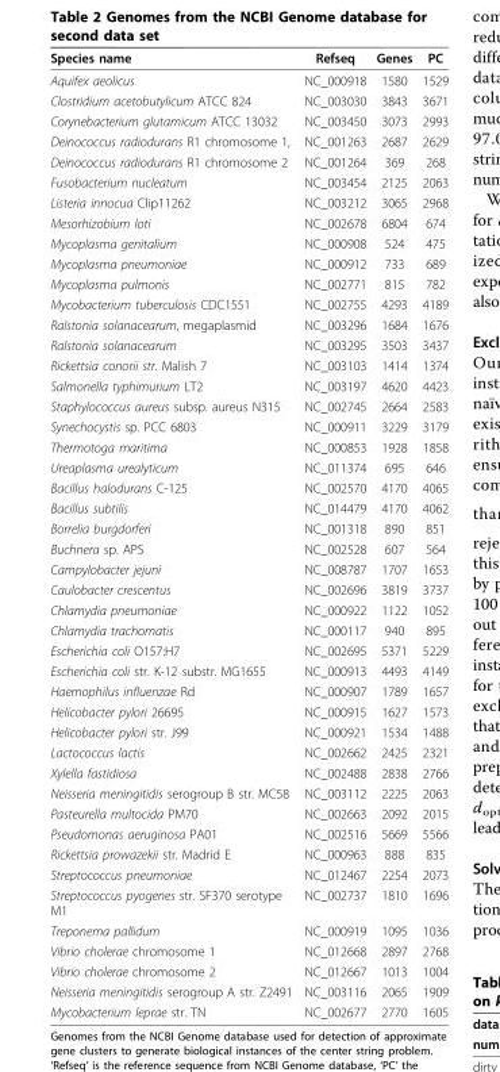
<table><thead><tr><td>Species name</td><td>Refseq</td><td>Genes</td><td>PC</td></tr></thead><tbody><tr><td>Aquifex aeolicus</td><td>NC_000918</td><td>1580</td><td>1529</td></tr><tr><td>Clostridium acetobutylicum ATCC 824</td><td>NC_003030</td><td>3843</td><td>3671</td></tr><tr><td>Corynebacterium glutamicum ATCC 13032</td><td>NC_003450</td><td>3073</td><td>2993</td></tr><tr><td>Deinococcus radiodurans R1 chromosome 1,</td><td>NC_001263</td><td>2687</td><td>2629</td></tr><tr><td>Deinococcus radiodurans R1 chromosome 2</td><td>NC_001264</td><td>369</td><td>268</td></tr><tr><td>Fusobacterium nucleatum</td><td>NC_003454</td><td>2125</td><td>2063</td></tr><tr><td>Listeria innocua Clip11262</td><td>NC_003212</td><td>3065</td><td>2968</td></tr><tr><td>Mesorhizobium loti</td><td>NC_002678</td><td>6804</td><td>674</td></tr><tr><td>Mycoplasma genitalium</td><td>NC_000908</td><td>524</td><td>475</td></tr><tr><td>Mycoplasma pneumoniae</td><td>NC_000912</td><td>733</td><td>689</td></tr><tr><td>Mycoplasma pulmonis</td><td>NC_002771</td><td>815</td><td>782</td></tr><tr><td>Mycobacterium tuberculosis CDC1551</td><td>NC_002755</td><td>4293</td><td>4189</td></tr><tr><td>Ralstonia solanacearum, megaplasmid</td><td>NC_003296</td><td>1684</td><td>1676</td></tr><tr><td>Ralstonia solanacearum</td><td>NC_003295</td><td>3503</td><td>3437</td></tr><tr><td>Rickettsia conorii str. Malish 7</td><td>NC_003103</td><td>1414</td><td>1374</td></tr><tr><td>Salmonella typhimurium LT2</td><td>NC_003197</td><td>4620</td><td>4423</td></tr><tr><td>Staphylococcus aureus subsp. aureus N315</td><td>NC_002745</td><td>2664</td><td>2583</td></tr><tr><td>Synechocystis sp. PCC 6803</td><td>NC_000911</td><td>3229</td><td>3179</td></tr><tr><td>Thermotoga maritima</td><td>NC_000853</td><td>1928</td><td>1858</td></tr><tr><td>Ureaplasma urealyticum</td><td>NC_011374</td><td>695</td><td>646</td></tr><tr><td>Bacillus halodurans C-125</td><td>NC_002570</td><td>4170</td><td>4065</td></tr><tr><td>Bacillus subtilis</td><td>NC_014479</td><td>4170</td><td>4062</td></tr><tr><td>Borrelia burgdorferi</td><td>NC_001318</td><td>890</td><td>851</td></tr><tr><td>Buchnera sp. APS</td><td>NC_002528</td><td>607</td><td>564</td></tr><tr><td>Campylobacter jejuni</td><td>NC_008787</td><td>1707</td><td>1653</td></tr><tr><td>Caulobacter crescentus</td><td>NC_002696</td><td>3819</td><td>3737</td></tr><tr><td>Chlamydia pneumoniae</td><td>NC_000922</td><td>1122</td><td>1052</td></tr><tr><td>Chlamydia trachomatis</td><td>NC_000117</td><td>940</td><td>895</td></tr><tr><td>Escherichia coli O157:H7</td><td>NC_002695</td><td>5371</td><td>5229</td></tr><tr><td>Escherichia coli str. K-12 substr. MG1655</td><td>NC_000913</td><td>4493</td><td>4149</td></tr><tr><td>Haemophilus influenzae Rd</td><td>NC_000907</td><td>1789</td><td>1657</td></tr><tr><td>Helicobacter pylori 26695</td><td>NC_000915</td><td>1627</td><td>1573</td></tr><tr><td>Helicobacter pylori str. J99</td><td>NC_000921</td><td>1534</td><td>1488</td></tr><tr><td>Lactococcus lactis</td><td>NC_002662</td><td>2425</td><td>2321</td></tr><tr><td>Xylella fastidiosa</td><td>NC_002488</td><td>2838</td><td>2766</td></tr><tr><td>Neisseria meningitidis serogroup B str. MC58</td><td>NC_003112</td><td>2225</td><td>2063</td></tr><tr><td>Pasteurella multocida PM70</td><td>NC_002663</td><td>2092</td><td>2015</td></tr><tr><td>Pseudomonas aeruginosa PA01</td><td>NC_002516</td><td>5669</td><td>5566</td></tr><tr><td>Rickettsia prowazekii str. Madrid E</td><td>NC_000963</td><td>888</td><td>835</td></tr><tr><td>Streptococcus pneumoniae</td><td>NC_012467</td><td>2254</td><td>2073</td></tr><tr><td>Streptococcus pyogenes str. SF370 serotype M1</td><td>NC_002737</td><td>1810</td><td>1696</td></tr><tr><td>Treponema pallidum</td><td>NC_000919</td><td>1095</td><td>1036</td></tr><tr><td>Vibrio cholerae chromosome 1</td><td>NC_012668</td><td>2897</td><td>2768</td></tr><tr><td>Vibrio cholerae chromosome 2</td><td>NC_012667</td><td>1013</td><td>1004</td></tr><tr><td>Neisseria meningitidis serogroup A str. Z2491</td><td>NC_003116</td><td>2065</td><td>1909</td></tr><tr><td>Mycobacterium leprae str. TN</td><td>NC_002677</td><td>2770</td><td>1605</td></tr></tbody></table>